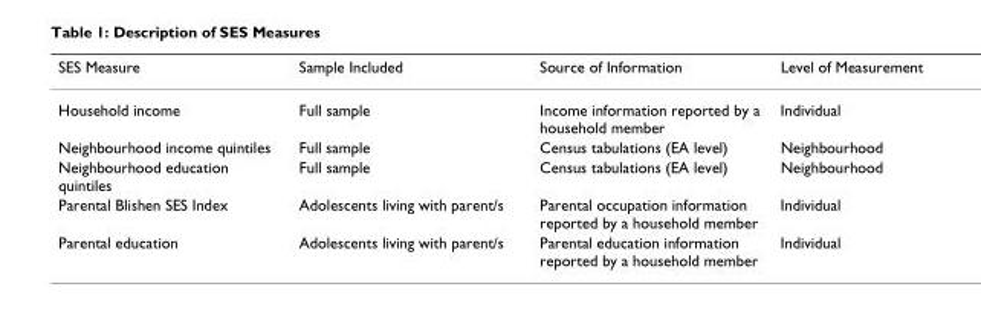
<table><thead><tr><td>SES Measure</td><td>Sample Included</td><td>Source of Information</td><td>Level of Measurement</td></tr></thead><tbody><tr><td>Household income</td><td>Full sample</td><td>Income information reported by a household member</td><td>Individual</td></tr><tr><td>Neighbourhood income quintiles</td><td>Full sample</td><td>Census tabulations (EA level)</td><td>Neighbourhood</td></tr><tr><td>Neighbourhood education quintiles</td><td>Full sample</td><td>Census tabulations (EA level)</td><td>Neighbourhood</td></tr><tr><td>Parental Blishen SES Index</td><td>Adolescents living with parent/s</td><td>Parental occupation information reported by a household member</td><td>Individual</td></tr><tr><td>Parental education</td><td>Adolescents living with parent/s</td><td>Parental education information reported by a household member</td><td>Individual</td></tr></tbody></table>